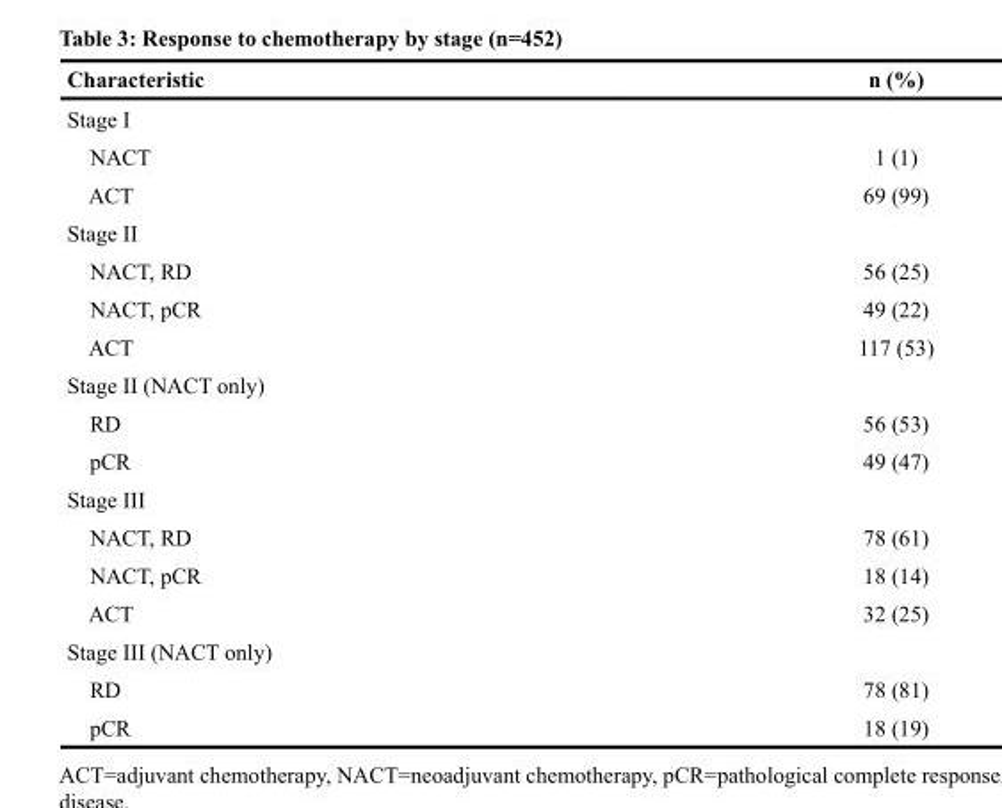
<table><thead><tr><td>Characteristic</td><td>n (%)</td></tr></thead><tbody><tr><td colspan="2">Stage I</td></tr><tr><td>NACT</td><td>1 (1)</td></tr><tr><td>ACT</td><td>69 (99)</td></tr><tr><td colspan="2">Stage II</td></tr><tr><td>NACT, RD</td><td>56 (25)</td></tr><tr><td>NACT, pCR</td><td>49 (22)</td></tr><tr><td>ACT</td><td>117 (53)</td></tr><tr><td colspan="2">Stage II (NACT only)</td></tr><tr><td>RD</td><td>56 (53)</td></tr><tr><td>pCR</td><td>49 (47)</td></tr><tr><td colspan="2">Stage III</td></tr><tr><td>NACT, RD</td><td>78 (61)</td></tr><tr><td>NACT, pCR</td><td>18 (14)</td></tr><tr><td>ACT</td><td>32 (25)</td></tr><tr><td colspan="2">Stage III (NACT only)</td></tr><tr><td>RD</td><td>78 (81)</td></tr><tr><td>pCR</td><td>18 (19)</td></tr></tbody></table>